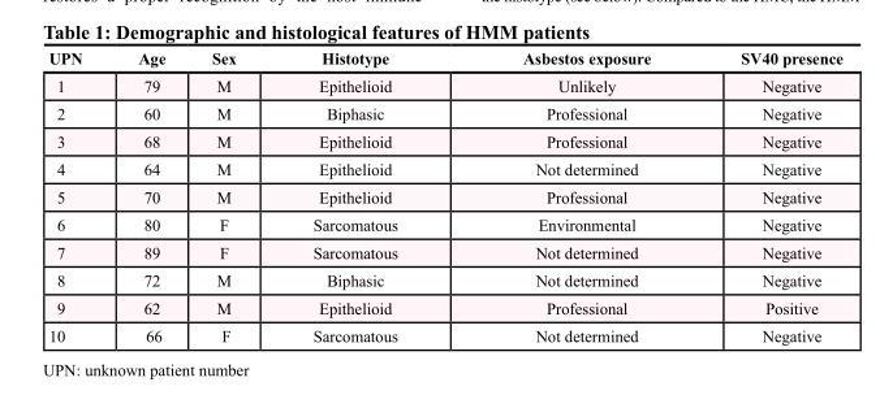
<table><thead><tr><td>UPN</td><td>Age</td><td>Sex</td><td>Histotype</td><td>Asbestos exposure</td><td>SV40 presence</td></tr></thead><tbody><tr><td>1</td><td>79</td><td>M</td><td>Epithelioid</td><td>Unlikely</td><td>Negative</td></tr><tr><td>2</td><td>60</td><td>M</td><td>Biphasic</td><td>Professional</td><td>Negative</td></tr><tr><td>3</td><td>68</td><td>M</td><td>Epithelioid</td><td>Professional</td><td>Negative</td></tr><tr><td>4</td><td>64</td><td>M</td><td>Epithelioid</td><td>Not determined</td><td>Negative</td></tr><tr><td>5</td><td>70</td><td>M</td><td>Epithelioid</td><td>Professional</td><td>Negative</td></tr><tr><td>6</td><td>80</td><td>F</td><td>Sarcomatous</td><td>Environmental</td><td>Negative</td></tr><tr><td>7</td><td>89</td><td>F</td><td>Sarcomatous</td><td>Not determined</td><td>Negative</td></tr><tr><td>8</td><td>72</td><td>M</td><td>Biphasic</td><td>Not determined</td><td>Negative</td></tr><tr><td>9</td><td>62</td><td>M</td><td>Epithelioid</td><td>Professional</td><td>Positive</td></tr><tr><td>10</td><td>66</td><td>F</td><td>Sarcomatous</td><td>Not determined</td><td>Negative</td></tr></tbody></table>